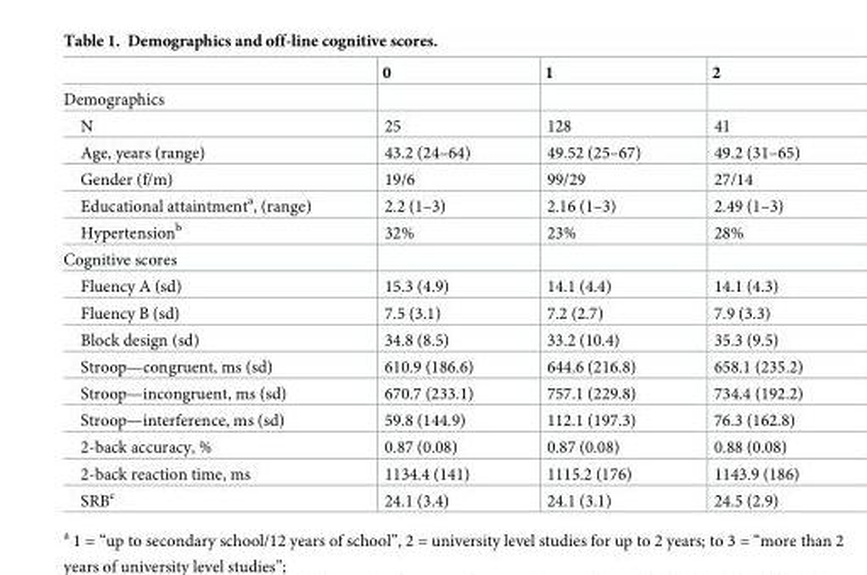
<table><thead><tr><td></td><td>0</td><td>1</td><td>2</td></tr></thead><tbody><tr><td colspan="4">Demographics</td></tr><tr><td>N</td><td>25</td><td>128</td><td>41</td></tr><tr><td>Age, years (range)</td><td>43.2 (24–64)</td><td>49.52 (25–67)</td><td>49.2 (31–65)</td></tr><tr><td>Gender (f/m)</td><td>19/6</td><td>99/29</td><td>27/14</td></tr><tr><td>Educational attaintment<sup>a</sup>, (range)</td><td>2.2 (1–3)</td><td>2.16 (1–3)</td><td>2.49 (1–3)</td></tr><tr><td>Hypertension<sup>b</sup></td><td>32%</td><td>23%</td><td>28%</td></tr><tr><td colspan="4">Cognitive scores</td></tr><tr><td>Fluency A (sd)</td><td>15.3 (4.9)</td><td>14.1 (4.4)</td><td>14.1 (4.3)</td></tr><tr><td>Fluency B (sd)</td><td>7.5 (3.1)</td><td>7.2 (2.7)</td><td>7.9 (3.3)</td></tr><tr><td>Block design (sd)</td><td>34.8 (8.5)</td><td>33.2 (10.4)</td><td>35.3 (9.5)</td></tr><tr><td>Stroop—congruent, ms (sd)</td><td>610.9 (186.6)</td><td>644.6 (216.8)</td><td>658.1 (235.2)</td></tr><tr><td>Stroop—incongruent, ms (sd)</td><td>670.7 (233.1)</td><td>757.1 (229.8)</td><td>734.4 (192.2)</td></tr><tr><td>Stroop—interference, ms (sd)</td><td>59.8 (144.9)</td><td>112.1 (197.3)</td><td>76.3 (162.8)</td></tr><tr><td>2-back accuracy, %</td><td>0.87 (0.08)</td><td>0.87 (0.08)</td><td>0.88 (0.08)</td></tr><tr><td>2-back reaction time, ms</td><td>1134.4 (141)</td><td>1115.2 (176)</td><td>1143.9 (186)</td></tr><tr><td>SRB<sup>c</sup></td><td>24.1 (3.4)</td><td>24.1 (3.1)</td><td>24.5 (2.9)</td></tr></tbody></table>